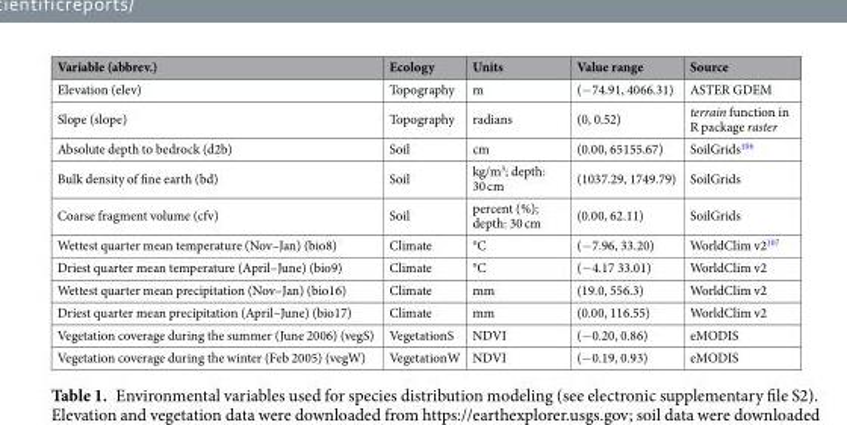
<table><thead><tr><td>Variable (abbrev.)</td><td>Ecology</td><td>Units</td><td>Value range</td><td>Source</td></tr></thead><tbody><tr><td>Elevation (elev)</td><td>Topography</td><td>m</td><td>(−74.91, 4066.31)</td><td>ASTER GDEM</td></tr><tr><td>Slope (slope)</td><td>Topography</td><td>radians</td><td>(0, 0.52)</td><td>terrain function in R package raster</td></tr><tr><td>Absolute depth to bedrock (d2b)</td><td>Soil</td><td>cm</td><td>(0.00, 65155.67)</td><td>SoilGrids<sup>106</sup></td></tr><tr><td>Bulk density of fine earth (bd)</td><td>Soil</td><td>kg/m<sup>3</sup>; depth: 30 cm</td><td>(1037.29, 1749.79)</td><td>SoilGrids</td></tr><tr><td>Coarse fragment volume (cfv)</td><td>Soil</td><td>percent (%); depth: 30 cm</td><td>(0.00, 62.11)</td><td>SoilGrids</td></tr><tr><td>Wettest quarter mean temperature (Nov–Jan) (bio8)</td><td>Climate</td><td>°C</td><td>(−7.96, 33.20)</td><td>WorldClim v2<sup>107</sup></td></tr><tr><td>Driest quarter mean temperature (April–June) (bio9)</td><td>Climate</td><td>°C</td><td>(−4.17 33.01)</td><td>WorldClim v2</td></tr><tr><td>Wettest quarter mean precipitation (Nov–Jan) (bio16)</td><td>Climate</td><td>mm</td><td>(19.0, 556.3)</td><td>WorldClim v2</td></tr><tr><td>Driest quarter mean precipitation (April–June) (bio17)</td><td>Climate</td><td>mm</td><td>(0.00, 116.55)</td><td>WorldClim v2</td></tr><tr><td>Vegetation coverage during the summer (June 2006) (vegS)</td><td>VegetationS</td><td>NDVI</td><td>(−0.20, 0.86)</td><td>eMODIS</td></tr><tr><td>Vegetation coverage during the winter (Feb 2005) (vegW)</td><td>VegetationW</td><td>NDVI</td><td>(−0.19, 0.93)</td><td>eMODIS</td></tr></tbody></table>